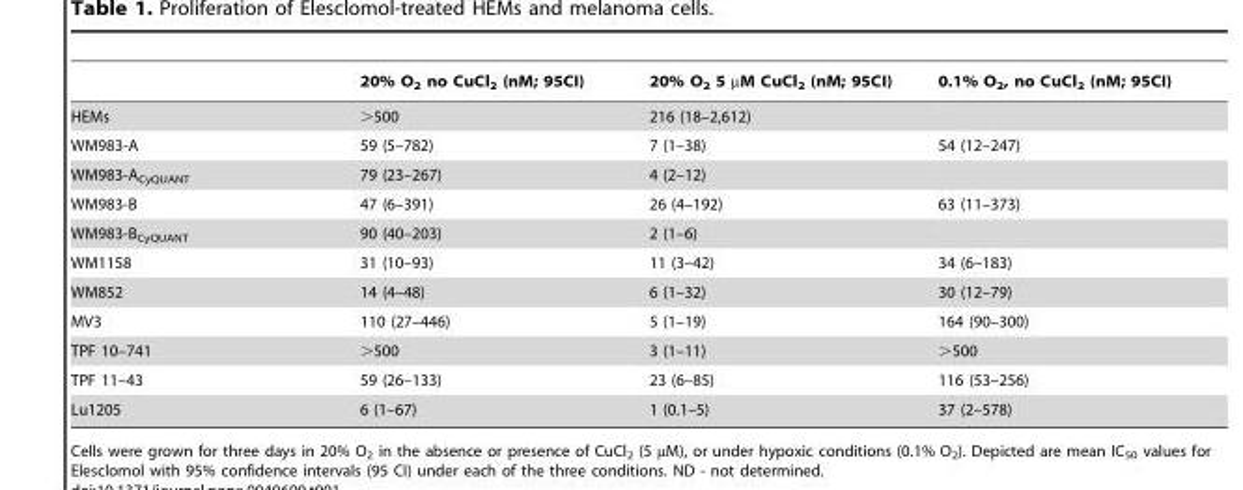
<table><thead><tr><td></td><td>20% O<sub>2</sub> no CuCl<sub>2</sub> (nM; 95CI)</td><td>20% O<sub>2</sub> 5 µM CuCl<sub>2</sub> (nM; 95CI)</td><td>0.1% O<sub>2</sub>, no CuCl<sub>2</sub> (nM; 95CI)</td></tr></thead><tbody><tr><td>HEMs</td><td>&gt;500</td><td>216 (18–2,612)</td><td></td></tr><tr><td>WM983-A</td><td>59 (5–782)</td><td>7 (1–38)</td><td>54 (12–247)</td></tr><tr><td>WM983-A<sub>CyQUANT</sub></td><td>79 (23–267)</td><td>4 (2–12)</td><td></td></tr><tr><td>WM983-B</td><td>47 (6–391)</td><td>26 (4–192)</td><td>63 (11–373)</td></tr><tr><td>WM983-B<sub>CyQUANT</sub></td><td>90 (40–203)</td><td>2 (1–6)</td><td></td></tr><tr><td>WM1158</td><td>31 (10–93)</td><td>11 (3–42)</td><td>34 (6–183)</td></tr><tr><td>WM852</td><td>14 (4–48)</td><td>6 (1–32)</td><td>30 (12–79)</td></tr><tr><td>MV3</td><td>110 (27–446)</td><td>5 (1–19)</td><td>164 (90–300)</td></tr><tr><td>TPF 10–741</td><td>&gt;500</td><td>3 (1–11)</td><td>&gt;500</td></tr><tr><td>TPF 11–43</td><td>59 (26–133)</td><td>23 (6–85)</td><td>116 (53–256)</td></tr><tr><td>Lu1205</td><td>6 (1–67)</td><td>1 (0.1–5)</td><td>37 (2–578)</td></tr></tbody></table>